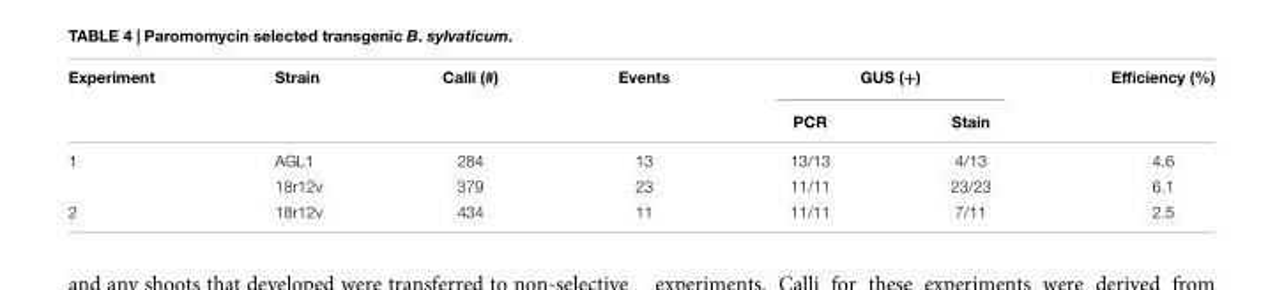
<table><thead><tr><td rowspan="2">Experiment</td><td rowspan="2">Strain</td><td rowspan="2">Calli (#)</td><td rowspan="2">Events</td><td colspan="2">GUS (+)</td><td rowspan="2">Efficiency (%)</td></tr><tr><td>PCR</td><td>Stain</td></tr></thead><tbody><tr><td rowspan="2">1</td><td>AGL1</td><td>284</td><td>13</td><td>13/13</td><td>4/13</td><td>4.6</td></tr><tr><td>18r12v</td><td>379</td><td>23</td><td>11/11</td><td>23/23</td><td>6.1</td></tr><tr><td>2</td><td>18r12v</td><td>434</td><td>11</td><td>11/11</td><td>7/11</td><td>2.5</td></tr></tbody></table>